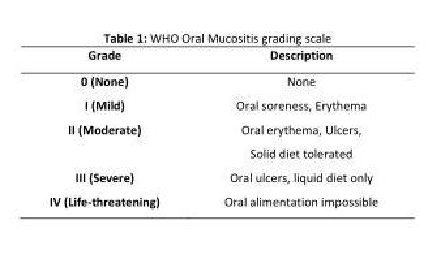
<table><thead><tr><td>Grade</td><td>Description</td></tr></thead><tbody><tr><td>0 (None)</td><td>None</td></tr><tr><td>I (Mild)</td><td>Oral soreness, Erythema</td></tr><tr><td>II (Moderate)</td><td>Oral erythema, Ulcers, Solid diet tolerated</td></tr><tr><td>III (Severe)</td><td>Oral ulcers, liquid diet only</td></tr><tr><td>IV (Life-threatening)</td><td>Oral alimentation impossible</td></tr></tbody></table>